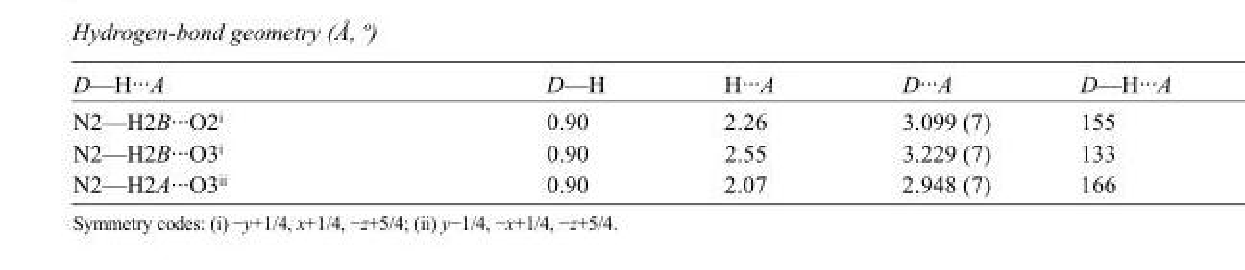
<table><tbody><tr><td>D—H···A</td><td>D—H</td><td>H···A</td><td>D···A</td><td>D—H···A</td></tr><tr><td>N2—H2B···O2<sup>i</sup></td><td>0.90</td><td>2.26</td><td>3.099 (7)</td><td>155</td></tr><tr><td>N2—H2B···O3<sup>i</sup></td><td>0.90</td><td>2.55</td><td>3.229 (7)</td><td>133</td></tr><tr><td>N2—H2A···O3<sup>ii</sup></td><td>0.90</td><td>2.07</td><td>2.948 (7)</td><td>166</td></tr></tbody></table>